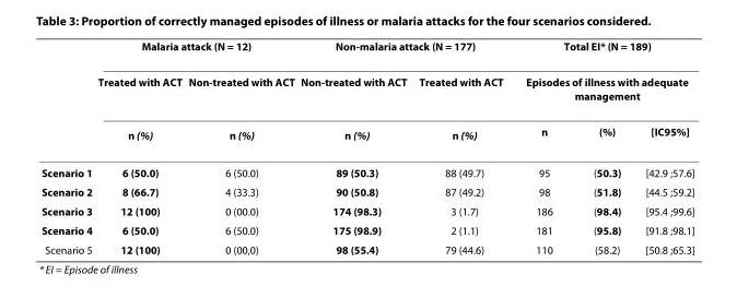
<table><thead><tr><td rowspan="3"></td><td colspan="2">Malaria attack (N = 12)</td><td colspan="2">Non-malaria attack (N = 177)</td><td rowspan="2" colspan="3">Total EI* (N = 189) Episodes of illness with adequate management</td></tr><tr><td rowspan="2">Treated with ACT n (%)</td><td rowspan="2">Non-treated with ACT n (%)</td><td rowspan="2">Non-treated with ACT n (%)</td><td rowspan="2">Treated with ACT n (%)</td></tr><tr><td>n</td><td>(%)</td><td>[IC95%]</td></tr></thead><tbody><tr><td>Scenario 1</td><td>6 (50.0)</td><td>6 (50.0)</td><td>89 (50.3)</td><td>88 (49.7)</td><td>95</td><td>(50.3)</td><td>[42.9 ;57.6]</td></tr><tr><td>Scenario 2</td><td>8 (66.7)</td><td>4 (33.3)</td><td>90 (50.8)</td><td>87 (49.2)</td><td>98</td><td>(51.8)</td><td>[44.5 ;59.2]</td></tr><tr><td>Scenario 3</td><td>12 (100)</td><td>0 (00.0)</td><td>174 (98.3)</td><td>3 (1.7)</td><td>186</td><td>(98.4)</td><td>[95.4 ;99.6]</td></tr><tr><td>Scenario 4</td><td>6 (50.0)</td><td>6 (50.0)</td><td>175 (98.9)</td><td>2 (1.1)</td><td>181</td><td>(95.8)</td><td>[91.8 ;98.1]</td></tr><tr><td>Scenario 5</td><td>12 (100)</td><td>0 (00,0)</td><td>98 (55.4)</td><td>79 (44.6)</td><td>110</td><td>(58.2)</td><td>[50.8 ;65.3]</td></tr></tbody></table>